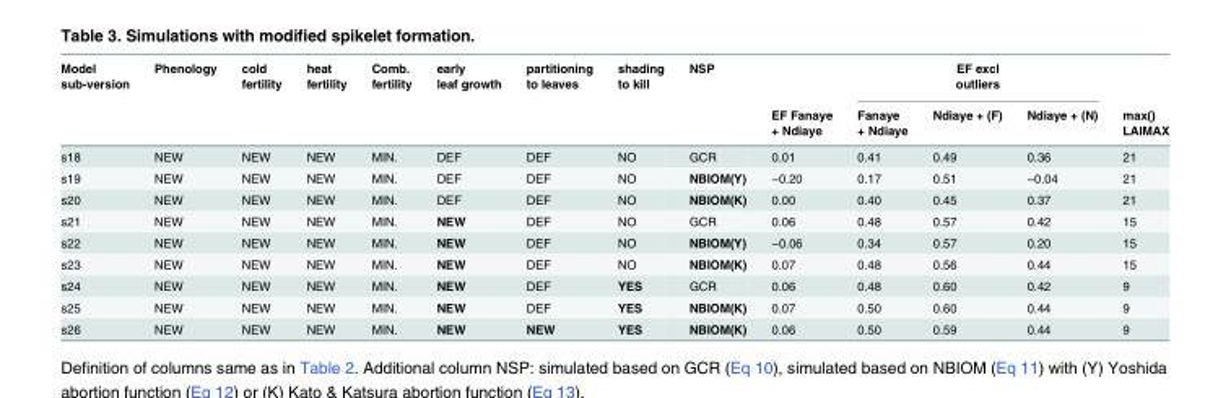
<table><thead><tr><td rowspan="2">Model sub-version</td><td rowspan="2">Phenology</td><td rowspan="2">cold fertility</td><td rowspan="2">heat fertility</td><td rowspan="2">Comb. fertility</td><td rowspan="2">early leaf growth</td><td rowspan="2">partitioning to leaves</td><td rowspan="2">shading to kill</td><td rowspan="2">NSP</td><td rowspan="2">EF Fanaye + Ndiaye</td><td colspan="3">EF excl outliers</td><td rowspan="2">max() LAIMAX</td></tr><tr><td>Fanaye + Ndiaye</td><td>Ndiaye + (F)</td><td>Ndiaye + (N)</td></tr></thead><tbody><tr><td>s18</td><td>NEW</td><td>NEW</td><td>NEW</td><td>MIN.</td><td>DEF</td><td>DEF</td><td>NO</td><td>GCR</td><td>0.01</td><td>0.41</td><td>0.49</td><td>0.36</td><td>21</td></tr><tr><td>s19</td><td>NEW</td><td>NEW</td><td>NEW</td><td>MIN.</td><td>DEF</td><td>DEF</td><td>NO</td><td>NBIOM(Y)</td><td>−0.20</td><td>0.17</td><td>0.51</td><td>−0.04</td><td>21</td></tr><tr><td>s20</td><td>NEW</td><td>NEW</td><td>NEW</td><td>MIN.</td><td>DEF</td><td>DEF</td><td>NO</td><td>NBIOM(K)</td><td>0.00</td><td>0.40</td><td>0.45</td><td>0.37</td><td>21</td></tr><tr><td>s21</td><td>NEW</td><td>NEW</td><td>NEW</td><td>MIN.</td><td>NEW</td><td>DEF</td><td>NO</td><td>GCR</td><td>0.06</td><td>0.48</td><td>0.57</td><td>0.42</td><td>15</td></tr><tr><td>s22</td><td>NEW</td><td>NEW</td><td>NEW</td><td>MIN.</td><td>NEW</td><td>DEF</td><td>NO</td><td>NBIOM(Y)</td><td>−0.06</td><td>0.34</td><td>0.57</td><td>0.20</td><td>15</td></tr><tr><td>s23</td><td>NEW</td><td>NEW</td><td>NEW</td><td>MIN.</td><td>NEW</td><td>DEF</td><td>NO</td><td>NBIOM(K)</td><td>0.07</td><td>0.48</td><td>0.56</td><td>0.44</td><td>15</td></tr><tr><td>s24</td><td>NEW</td><td>NEW</td><td>NEW</td><td>MIN.</td><td>NEW</td><td>DEF</td><td>YES</td><td>GCR</td><td>0.06</td><td>0.48</td><td>0.60</td><td>0.42</td><td>9</td></tr><tr><td>s25</td><td>NEW</td><td>NEW</td><td>NEW</td><td>MIN.</td><td>NEW</td><td>DEF</td><td>YES</td><td>NBIOM(K)</td><td>0.07</td><td>0.50</td><td>0.60</td><td>0.44</td><td>9</td></tr><tr><td>s26</td><td>NEW</td><td>NEW</td><td>NEW</td><td>MIN.</td><td>NEW</td><td>NEW</td><td>YES</td><td>NBIOM(K)</td><td>0.06</td><td>0.50</td><td>0.59</td><td>0.44</td><td>9</td></tr></tbody></table>